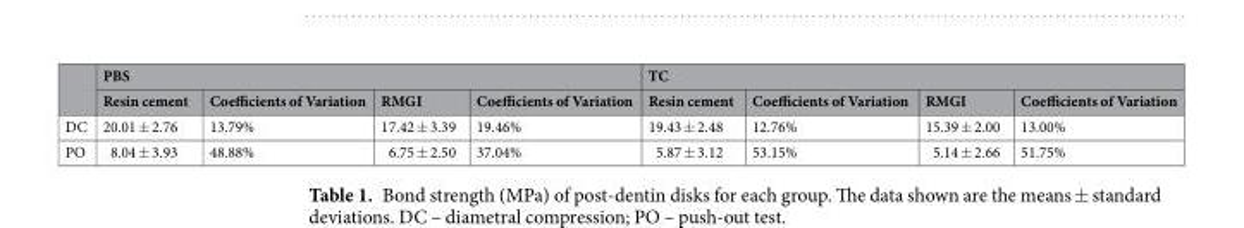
<table><thead><tr><td rowspan="2"></td><td colspan="4">PBS</td><td colspan="4">TC</td></tr><tr><td>Resin cement</td><td>Coefficients of Variation</td><td>RMGI</td><td>Coefficients of Variation</td><td>Resin cement</td><td>Coefficients of Variation</td><td>RMGI</td><td>Coefficients of Variation</td></tr></thead><tbody><tr><td>DC</td><td>20.01 ± 2.76</td><td>13.79%</td><td>17.42 ± 3.39</td><td>19.46%</td><td>19.43 ± 2.48</td><td>12.76%</td><td>15.39 ± 2.00</td><td>13.00%</td></tr><tr><td>PO</td><td>8.04 ± 3.93</td><td>48.88%</td><td>6.75 ± 2.50</td><td>37.04%</td><td>5.87 ± 3.12</td><td>53.15%</td><td>5.14 ± 2.66</td><td>51.75%</td></tr></tbody></table>